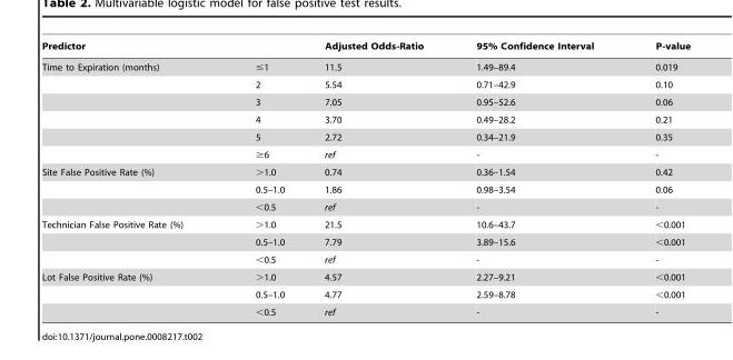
<table><thead><tr><td colspan="2">Predictor</td><td rowspan="2">Adjusted Odds-Ratio 11.5</td><td rowspan="2">95% Confidence Interval 1.49–89.4</td><td rowspan="2">P-value 0.019</td></tr><tr><td>Time to Expiration (months)</td><td>≤1</td></tr></thead><tbody><tr><td></td><td>2</td><td>5.54</td><td>0.71–42.9</td><td>0.10</td></tr><tr><td></td><td>3</td><td>7.05</td><td>0.95–52.6</td><td>0.06</td></tr><tr><td></td><td>4</td><td>3.70</td><td>0.49–28.2</td><td>0.21</td></tr><tr><td></td><td>5</td><td>2.72</td><td>0.34–21.9</td><td>0.35</td></tr><tr><td></td><td>≥6</td><td>ref</td><td>-</td><td>-</td></tr><tr><td rowspan="3">Site False Positive Rate (%)</td><td>&gt;1.0</td><td>0.74</td><td>0.36–1.54</td><td>0.42</td></tr><tr><td>0.5–1.0</td><td>1.86</td><td>0.98–3.54</td><td>0.06</td></tr><tr><td>&lt;0.5</td><td>ref</td><td>-</td><td>-</td></tr><tr><td rowspan="3">Technician False Positive Rate (%)</td><td>&gt;1.0</td><td>21.5</td><td>10.6–43.7</td><td>&lt;0.001</td></tr><tr><td>0.5–1.0</td><td>7.79</td><td>3.89–15.6</td><td>&lt;0.001</td></tr><tr><td>&lt;0.5</td><td>ref</td><td>-</td><td>-</td></tr><tr><td rowspan="3">Lot False Positive Rate (%)</td><td>&gt;1.0</td><td>4.57</td><td>2.27–9.21</td><td>&lt;0.001</td></tr><tr><td>0.5–1.0</td><td>4.77</td><td>2.59–8.78</td><td>&lt;0.001</td></tr><tr><td>&lt;0.5</td><td>ref</td><td>-</td><td>-</td></tr></tbody></table>